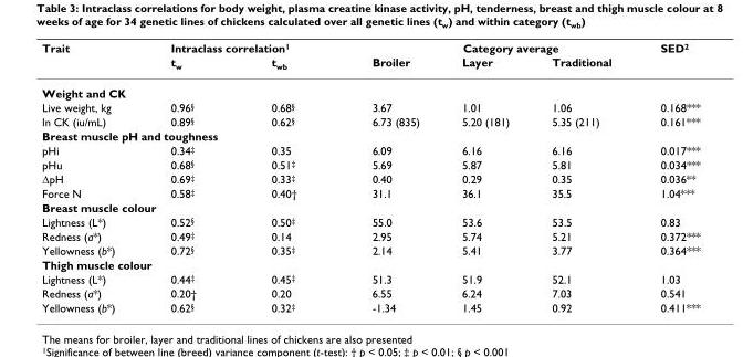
<table><thead><tr><td rowspan="2">Trait</td><td colspan="2">Intraclass correlation<sup>1</sup></td><td colspan="3">Category average</td><td rowspan="2">SED<sup>2</sup></td></tr><tr><td>t<sub>w</sub></td><td>t<sub>wb</sub></td><td>Broiler</td><td>Layer</td><td>Traditional</td></tr></thead><tbody><tr><td colspan="7">Weight and CK</td></tr><tr><td>Live weight, kg</td><td>0.96<sup>§</sup></td><td>0.68<sup>§</sup></td><td>3.67</td><td>1.01</td><td>1.06</td><td>0.168***</td></tr><tr><td>ln CK (iu/mL)</td><td>0.89<sup>§</sup></td><td>0.62<sup>§</sup></td><td>6.73 (835)</td><td>5.20 (181)</td><td>5.35 (211)</td><td>0.161***</td></tr><tr><td colspan="7">Breast muscle pH and toughness</td></tr><tr><td>pHi</td><td>0.34<sup>‡</sup></td><td>0.35</td><td>6.09</td><td>6.16</td><td>6.16</td><td>0.017***</td></tr><tr><td>pHu</td><td>0.68<sup>§</sup></td><td>0.51<sup>‡</sup></td><td>5.69</td><td>5.87</td><td>5.81</td><td>0.034***</td></tr><tr><td>ΔpH</td><td>0.69<sup>‡</sup></td><td>0.33<sup>‡</sup></td><td>0.40</td><td>0.29</td><td>0.35</td><td>0.036**</td></tr><tr><td>Force N</td><td>0.58<sup>‡</sup></td><td>0.40†</td><td>31.1</td><td>36.1</td><td>35.5</td><td>1.04***</td></tr><tr><td colspan="7">Breast muscle colour</td></tr><tr><td>Lightness (L*)</td><td>0.52<sup>§</sup></td><td>0.50<sup>‡</sup></td><td>55.0</td><td>53.6</td><td>53.5</td><td>0.83</td></tr><tr><td>Redness (a*)</td><td>0.49<sup>‡</sup></td><td>0.14</td><td>2.95</td><td>5.74</td><td>5.21</td><td>0.372***</td></tr><tr><td>Yellowness (b*)</td><td>0.72<sup>§</sup></td><td>0.35<sup>‡</sup></td><td>2.14</td><td>5.41</td><td>3.77</td><td>0.364***</td></tr><tr><td colspan="7">Thigh muscle colour</td></tr><tr><td>Lightness (L*)</td><td>0.44<sup>‡</sup></td><td>0.45<sup>‡</sup></td><td>51.3</td><td>51.9</td><td>52.1</td><td>1.03</td></tr><tr><td>Redness (a*)</td><td>0.20†</td><td>0.20</td><td>6.55</td><td>6.24</td><td>7.03</td><td>0.541</td></tr><tr><td>Yellowness (b*)</td><td>0.62<sup>§</sup></td><td>0.32<sup>‡</sup></td><td>-1.34</td><td>1.45</td><td>0.92</td><td>0.411***</td></tr></tbody></table>